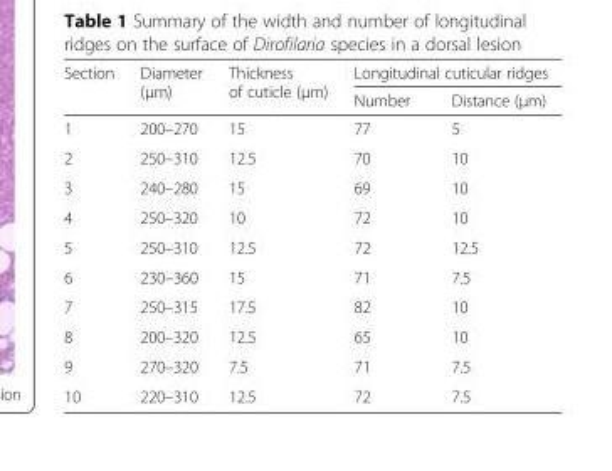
<table><thead><tr><td rowspan="2">Section</td><td rowspan="2">Diameter (μm)</td><td rowspan="2">Thickness of cuticle (μm)</td><td colspan="2">Longitudinal cuticular ridges</td></tr><tr><td>Number</td><td>Distance (μm)</td></tr></thead><tbody><tr><td>1</td><td>200–270</td><td>15</td><td>77</td><td>5</td></tr><tr><td>2</td><td>250–310</td><td>12.5</td><td>70</td><td>10</td></tr><tr><td>3</td><td>240–280</td><td>15</td><td>69</td><td>10</td></tr><tr><td>4</td><td>250–320</td><td>10</td><td>72</td><td>10</td></tr><tr><td>5</td><td>250–310</td><td>12.5</td><td>72</td><td>12.5</td></tr><tr><td>6</td><td>230–360</td><td>15</td><td>71</td><td>7.5</td></tr><tr><td>7</td><td>250–315</td><td>17.5</td><td>82</td><td>10</td></tr><tr><td>8</td><td>200–320</td><td>12.5</td><td>65</td><td>10</td></tr><tr><td>9</td><td>270–320</td><td>7.5</td><td>71</td><td>7.5</td></tr><tr><td>10</td><td>220–310</td><td>12.5</td><td>72</td><td>7.5</td></tr></tbody></table>